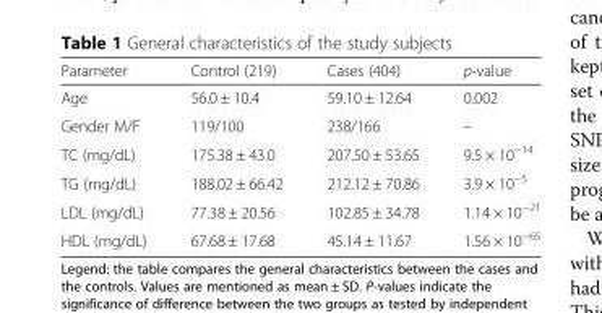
<table><thead><tr><td>Parameter</td><td>Control (219)</td><td>Cases (404)</td><td>p-value</td></tr></thead><tbody><tr><td>Age</td><td>56.0 ± 10.4</td><td>59.10 ± 12.64</td><td>0.002</td></tr><tr><td>Gender M/F</td><td>119/100</td><td>238/166</td><td>–</td></tr><tr><td>TC (mg/dL)</td><td>175.38 ± 43.0</td><td>207.50 ± 53.65</td><td>9.5 × 10<sup>−14</sup></td></tr><tr><td>TG (mg/dL)</td><td>188.02 ± 66.42</td><td>212.12 ± 70.86</td><td>3.9 × 10<sup>−5</sup></td></tr><tr><td>LDL (mg/dL)</td><td>77.38 ± 20.56</td><td>102.85 ± 34.78</td><td>1.14 × 10<sup>−21</sup></td></tr><tr><td>HDL (mg/dL)</td><td>67.68 ± 17.68</td><td>45.14 ± 11.67</td><td>1.56 × 10<sup>−65</sup></td></tr></tbody></table>